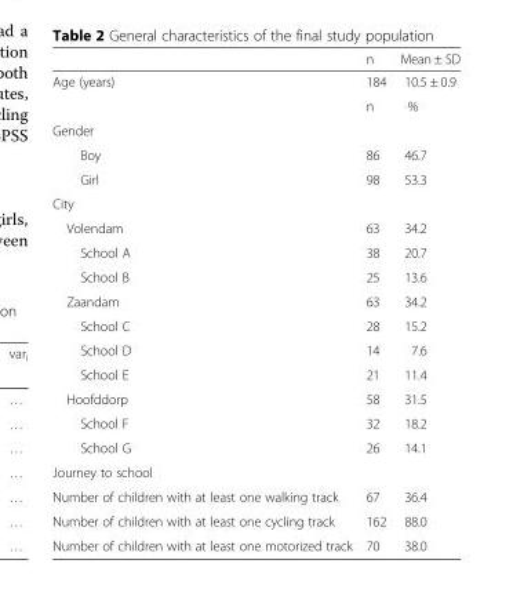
<table><thead><tr><td></td><td>n</td><td>Mean ± SD</td></tr></thead><tbody><tr><td rowspan="2">Age (years)</td><td>184</td><td>10.5 ± 0.9</td></tr><tr><td>n</td><td>%</td></tr><tr><td colspan="3">Gender</td></tr><tr><td>Boy</td><td>86</td><td>46.7</td></tr><tr><td>Girl</td><td>98</td><td>53.3</td></tr><tr><td colspan="3">City</td></tr><tr><td>Volendam</td><td>63</td><td>34.2</td></tr><tr><td>School A</td><td>38</td><td>20.7</td></tr><tr><td>School B</td><td>25</td><td>13.6</td></tr><tr><td>Zaandam</td><td>63</td><td>34.2</td></tr><tr><td>School C</td><td>28</td><td>15.2</td></tr><tr><td>School D</td><td>14</td><td>7.6</td></tr><tr><td>School E</td><td>21</td><td>11.4</td></tr><tr><td>Hoofddorp</td><td>58</td><td>31.5</td></tr><tr><td>School F</td><td>32</td><td>18.2</td></tr><tr><td>School G</td><td>26</td><td>14.1</td></tr><tr><td colspan="3">Journey to school</td></tr><tr><td>Number of children with at least one walking track</td><td>67</td><td>36.4</td></tr><tr><td>Number of children with at least one cycling track</td><td>162</td><td>88.0</td></tr><tr><td>Number of children with at least one motorized track</td><td>70</td><td>38.0</td></tr></tbody></table>